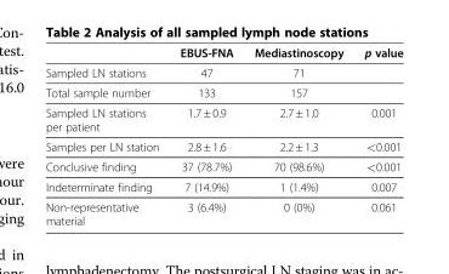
<table><thead><tr><td></td><td>EBUS-FNA</td><td>Mediastinoscopy</td><td>p value</td></tr></thead><tbody><tr><td>Sampled LN stations</td><td>47</td><td>71</td><td></td></tr><tr><td>Total sample number</td><td>133</td><td>157</td><td></td></tr><tr><td>Sampled LN stations per patient</td><td>1.7 ± 0.9</td><td>2.7 ± 1.0</td><td>0.001</td></tr><tr><td>Samples per LN station</td><td>2.8 ± 1.6</td><td>2.2 ± 1.3</td><td>&lt;0.001</td></tr><tr><td>Conclusive finding</td><td>37 (78.7%)</td><td>70 (98.6%)</td><td>&lt;0.001</td></tr><tr><td>Indeterminate finding</td><td>7 (14.9%)</td><td>1 (1.4%)</td><td>0.007</td></tr><tr><td>Non-representative material</td><td>3 (6.4%)</td><td>0 (0%)</td><td>0.061</td></tr></tbody></table>